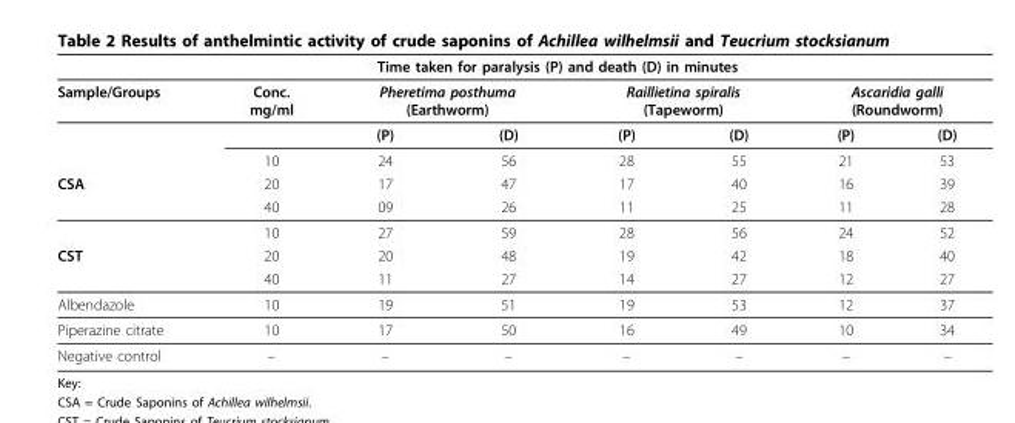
<table><thead><tr><td rowspan="3">Sample/Groups</td><td colspan="6">Time taken for paralysis (P) and death (D) in minutes</td><td></td></tr><tr><td rowspan="2">Conc. mg/ml</td><td colspan="2">Pheretima posthuma (Earthworm)</td><td colspan="2">Raillietina spiralis (Tapeworm)</td><td colspan="2">Ascaridia galli (Roundworm)</td></tr><tr><td>(P)</td><td>(D)</td><td>(P)</td><td>(D)</td><td>(P)</td><td>(D)</td></tr></thead><tbody><tr><td></td><td>10</td><td>24</td><td>56</td><td>28</td><td>55</td><td>21</td><td>53</td></tr><tr><td rowspan="3">CSA</td><td>20</td><td>17</td><td>47</td><td>17</td><td>40</td><td>16</td><td>39</td></tr><tr><td>40</td><td>09</td><td>26</td><td>11</td><td>25</td><td>11</td><td>28</td></tr><tr><td>10</td><td>27</td><td>59</td><td>28</td><td>56</td><td>24</td><td>52</td></tr><tr><td rowspan="2">CST</td><td>20</td><td>20</td><td>48</td><td>19</td><td>42</td><td>18</td><td>40</td></tr><tr><td>40</td><td>11</td><td>27</td><td>14</td><td>27</td><td>12</td><td>27</td></tr><tr><td>Albendazole</td><td>10</td><td>19</td><td>51</td><td>19</td><td>53</td><td>12</td><td>37</td></tr><tr><td>Piperazine citrate</td><td>10</td><td>17</td><td>50</td><td>16</td><td>49</td><td>10</td><td>34</td></tr><tr><td>Negative control</td><td>–</td><td>–</td><td>–</td><td>–</td><td>–</td><td>–</td><td>–</td></tr></tbody></table>